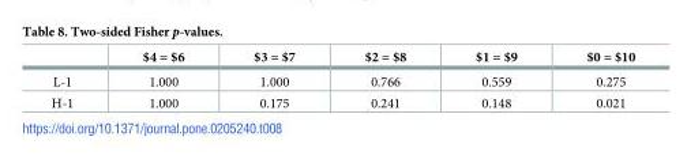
<table><thead><tr><td></td><td>$4 = $6</td><td>$3 = $7</td><td>$2 = $8</td><td>$1 = $9</td><td>$0 = $10</td></tr></thead><tbody><tr><td>L-1</td><td>1.000</td><td>1.000</td><td>0.766</td><td>0.559</td><td>0.275</td></tr><tr><td>H-1</td><td>1.000</td><td>0.175</td><td>0.241</td><td>0.148</td><td>0.021</td></tr></tbody></table>